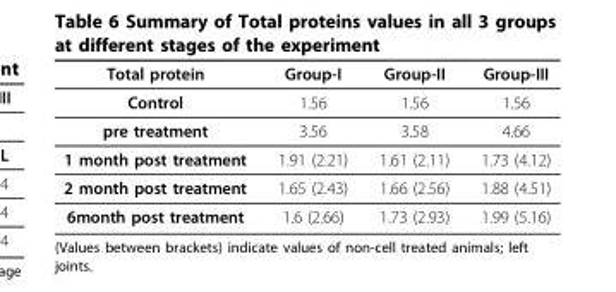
<table><thead><tr><td>Total protein</td><td>Group-I</td><td>Group-II</td><td>Group-III</td></tr></thead><tbody><tr><td>Control</td><td>1.56</td><td>1.56</td><td>1.56</td></tr><tr><td>pre treatment</td><td>3.56</td><td>3.58</td><td>4.66</td></tr><tr><td>1 month post treatment</td><td>1.91 (2.21)</td><td>1.61 (2.11)</td><td>1.73 (4.12)</td></tr><tr><td>2 month post treatment</td><td>1.65 (2.43)</td><td>1.66 (2.56)</td><td>1.88 (4.51)</td></tr><tr><td>6month post treatment</td><td>1.6 (2.66)</td><td>1.73 (2.93)</td><td>1.99 (5.16)</td></tr></tbody></table>